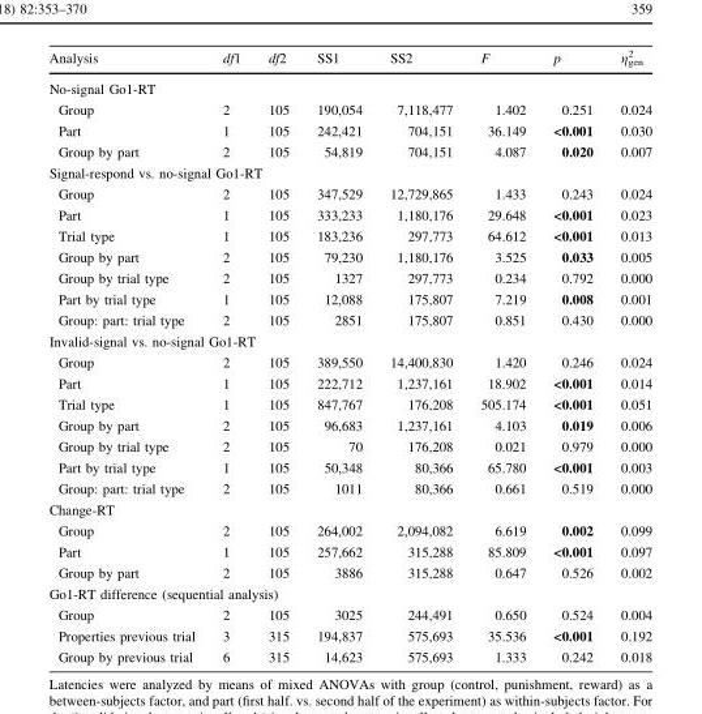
<table><thead><tr><td>Analysis</td><td>df1</td><td>df2</td><td>SS1</td><td>SS2</td><td>F</td><td>p</td><td>η<sub>gen</sub> <sup>2</sup></td></tr></thead><tbody><tr><td colspan="8">No-signal Go1-RT</td></tr><tr><td>Group</td><td>2</td><td>105</td><td>190,054</td><td>7,118,477</td><td>1.402</td><td>0.251</td><td>0.024</td></tr><tr><td>Part</td><td>1</td><td>105</td><td>242,421</td><td>704,151</td><td>36.149</td><td>&lt;0.001</td><td>0.030</td></tr><tr><td>Group by part</td><td>2</td><td>105</td><td>54,819</td><td>704,151</td><td>4.087</td><td>0.020</td><td>0.007</td></tr><tr><td colspan="8">Signal-respond vs. no-signal Go1-RT</td></tr><tr><td>Group</td><td>2</td><td>105</td><td>347,529</td><td>12,729,865</td><td>1.433</td><td>0.243</td><td>0.024</td></tr><tr><td>Part</td><td>1</td><td>105</td><td>333,233</td><td>1,180,176</td><td>29.648</td><td>&lt;0.001</td><td>0.023</td></tr><tr><td>Trial type</td><td>1</td><td>105</td><td>183,236</td><td>297,773</td><td>64.612</td><td>&lt;0.001</td><td>0.013</td></tr><tr><td>Group by part</td><td>2</td><td>105</td><td>79,230</td><td>1,180,176</td><td>3.525</td><td>0.033</td><td>0.005</td></tr><tr><td>Group by trial type</td><td>2</td><td>105</td><td>1327</td><td>297,773</td><td>0.234</td><td>0.792</td><td>0.000</td></tr><tr><td>Part by trial type</td><td>1</td><td>105</td><td>12,088</td><td>175,807</td><td>7.219</td><td>0.008</td><td>0.001</td></tr><tr><td>Group: part: trial type</td><td>2</td><td>105</td><td>2851</td><td>175,807</td><td>0.851</td><td>0.430</td><td>0.000</td></tr><tr><td colspan="8">Invalid-signal vs. no-signal Go1-RT</td></tr><tr><td>Group</td><td>2</td><td>105</td><td>389,550</td><td>14,400,830</td><td>1.420</td><td>0.246</td><td>0.024</td></tr><tr><td>Part</td><td>1</td><td>105</td><td>222,712</td><td>1,237,161</td><td>18.902</td><td>&lt;0.001</td><td>0.014</td></tr><tr><td>Trial type</td><td>1</td><td>105</td><td>847,767</td><td>176,208</td><td>505.174</td><td>&lt;0.001</td><td>0.051</td></tr><tr><td>Group by part</td><td>2</td><td>105</td><td>96,683</td><td>1,237,161</td><td>4.103</td><td>0.019</td><td>0.006</td></tr><tr><td>Group by trial type</td><td>2</td><td>105</td><td>70</td><td>176,208</td><td>0.021</td><td>0.979</td><td>0.000</td></tr><tr><td>Part by trial type</td><td>1</td><td>105</td><td>50,348</td><td>80,366</td><td>65.780</td><td>&lt;0.001</td><td>0.003</td></tr><tr><td>Group: part: trial type</td><td>2</td><td>105</td><td>1011</td><td>80,366</td><td>0.661</td><td>0.519</td><td>0.000</td></tr><tr><td colspan="8">Change-RT</td></tr><tr><td>Group</td><td>2</td><td>105</td><td>264,002</td><td>2,094,082</td><td>6.619</td><td>0.002</td><td>0.099</td></tr><tr><td>Part</td><td>1</td><td>105</td><td>257,662</td><td>315,288</td><td>85.809</td><td>&lt;0.001</td><td>0.097</td></tr><tr><td>Group by part</td><td>2</td><td>105</td><td>3886</td><td>315,288</td><td>0.647</td><td>0.526</td><td>0.002</td></tr><tr><td colspan="8">Go1-RT difference (sequential analysis)</td></tr><tr><td>Group</td><td>2</td><td>105</td><td>3025</td><td>244,491</td><td>0.650</td><td>0.524</td><td>0.004</td></tr><tr><td>Properties previous trial</td><td>3</td><td>315</td><td>194,837</td><td>575,693</td><td>35.536</td><td>&lt;0.001</td><td>0.192</td></tr><tr><td>Group by previous trial</td><td>6</td><td>315</td><td>14,623</td><td>575,693</td><td>1.333</td><td>0.242</td><td>0.018</td></tr></tbody></table>